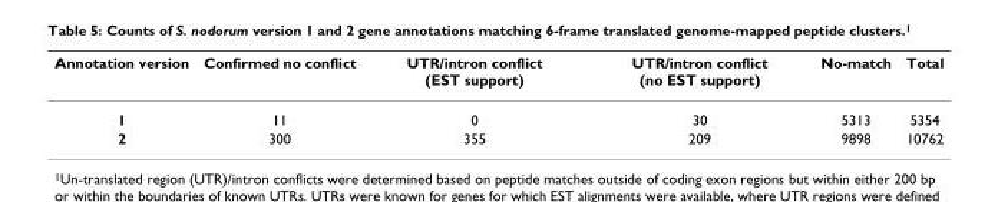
<table><thead><tr><td>Annotation version</td><td>Confirmed no conflict</td><td>UTR/intron conflict (EST support)</td><td>UTR/intron conflict (no EST support)</td><td>No-match</td><td>Total</td></tr></thead><tbody><tr><td>1</td><td>11</td><td>0</td><td>30</td><td>5313</td><td>5354</td></tr><tr><td>2</td><td>300</td><td>355</td><td>209</td><td>9898</td><td>10762</td></tr></tbody></table>